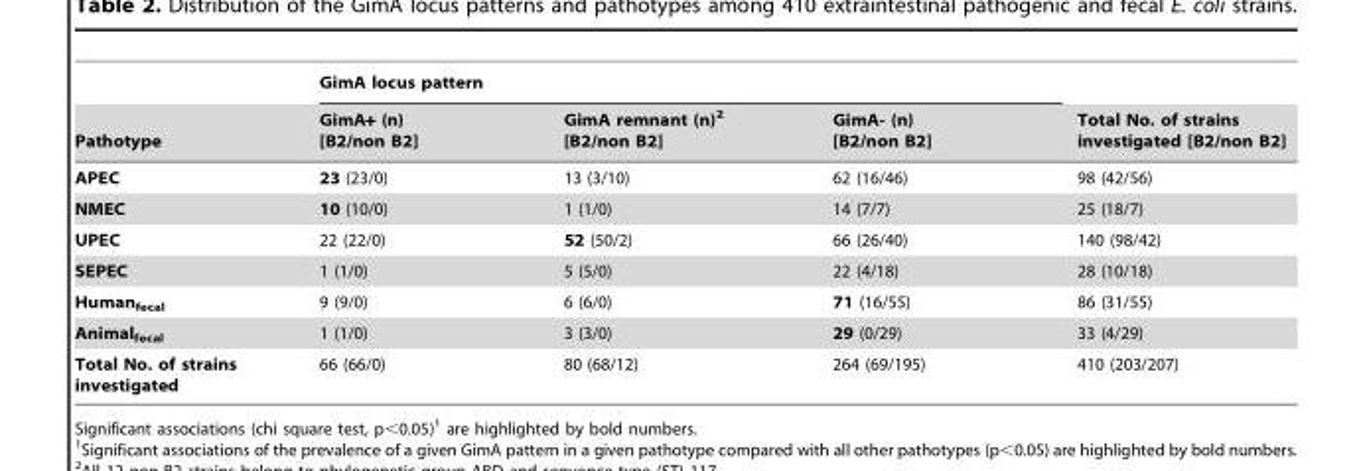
<table><thead><tr><td rowspan="2">Pathotype</td><td colspan="3">GimA locus pattern</td><td rowspan="2">Total No. of strains investigated [B2/non B2]</td></tr><tr><td>GimA+ (n) [B2/non B2]</td><td>GimA remnant (n)<sup>2</sup> [B2/non B2]</td><td>GimA- (n) [B2/non B2]</td></tr></thead><tbody><tr><td>APEC</td><td>23 (23/0)</td><td>13 (3/10)</td><td>62 (16/46)</td><td>98 (42/56)</td></tr><tr><td>NMEC</td><td>10 (10/0)</td><td>1 (1/0)</td><td>14 (7/7)</td><td>25 (18/7)</td></tr><tr><td>UPEC</td><td>22 (22/0)</td><td>52 (50/2)</td><td>66 (26/40)</td><td>140 (98/42)</td></tr><tr><td>SEPEC</td><td>1 (1/0)</td><td>5 (5/0)</td><td>22 (4/18)</td><td>28 (10/18)</td></tr><tr><td>Human<sub>fecal</sub></td><td>9 (9/0)</td><td>6 (6/0)</td><td>71 (16/55)</td><td>86 (31/55)</td></tr><tr><td>Animal<sub>fecal</sub></td><td>1 (1/0)</td><td>3 (3/0)</td><td>29 (0/29)</td><td>33 (4/29)</td></tr><tr><td>Total No. of strains investigated</td><td>66 (66/0)</td><td>80 (68/12)</td><td>264 (69/195)</td><td>410 (203/207)</td></tr></tbody></table>